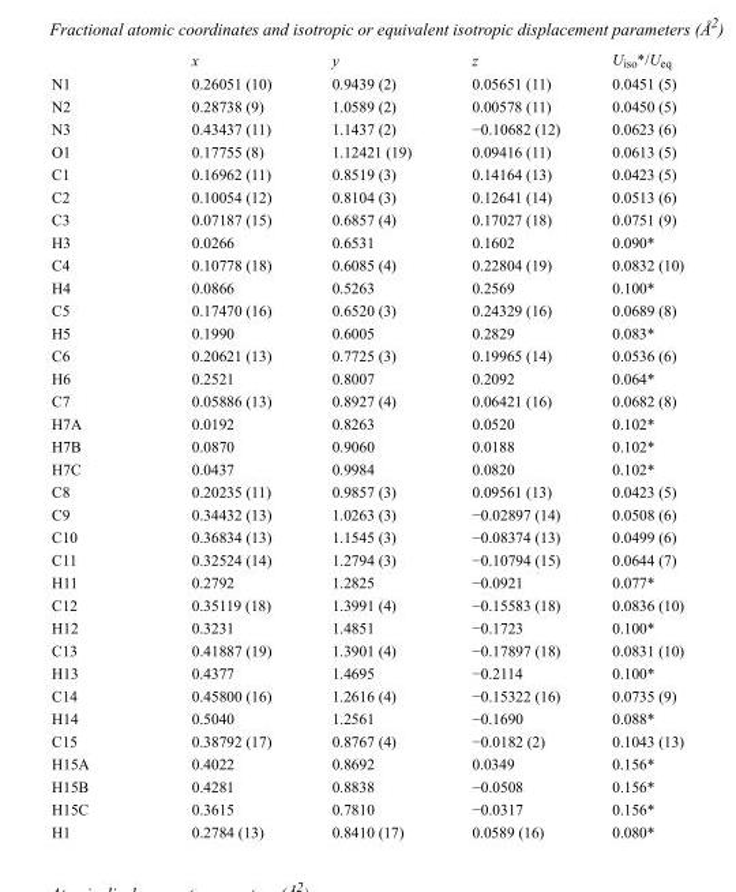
<table><thead><tr><td></td><td>x</td><td>y</td><td>z</td><td>U<sub>iso</sub>*/U<sub>eq</sub></td></tr></thead><tbody><tr><td>N1</td><td>0.26051 (10)</td><td>0.9439 (2)</td><td>0.05651 (11)</td><td>0.0451 (5)</td></tr><tr><td>N2</td><td>0.28738 (9)</td><td>1.0589 (2)</td><td>0.00578 (11)</td><td>0.0450 (5)</td></tr><tr><td>N3</td><td>0.43437 (11)</td><td>1.1437 (2)</td><td>−0.10682 (12)</td><td>0.0623 (6)</td></tr><tr><td>O1</td><td>0.17755 (8)</td><td>1.12421 (19)</td><td>0.09416 (11)</td><td>0.0613 (5)</td></tr><tr><td>C1</td><td>0.16962 (11)</td><td>0.8519 (3)</td><td>0.14164 (13)</td><td>0.0423 (5)</td></tr><tr><td>C2</td><td>0.10054 (12)</td><td>0.8104 (3)</td><td>0.12641 (14)</td><td>0.0513 (6)</td></tr><tr><td>C3</td><td>0.07187 (15)</td><td>0.6857 (4)</td><td>0.17027 (18)</td><td>0.0751 (9)</td></tr><tr><td>H3</td><td>0.0266</td><td>0.6531</td><td>0.1602</td><td>0.090*</td></tr><tr><td>C4</td><td>0.10778 (18)</td><td>0.6085 (4)</td><td>0.22804 (19)</td><td>0.0832 (10)</td></tr><tr><td>H4</td><td>0.0866</td><td>0.5263</td><td>0.2569</td><td>0.100*</td></tr><tr><td>C5</td><td>0.17470 (16)</td><td>0.6520 (3)</td><td>0.24329 (16)</td><td>0.0689 (8)</td></tr><tr><td>H5</td><td>0.1990</td><td>0.6005</td><td>0.2829</td><td>0.083*</td></tr><tr><td>C6</td><td>0.20621 (13)</td><td>0.7725 (3)</td><td>0.19965 (14)</td><td>0.0536 (6)</td></tr><tr><td>H6</td><td>0.2521</td><td>0.8007</td><td>0.2092</td><td>0.064*</td></tr><tr><td>C7</td><td>0.05886 (13)</td><td>0.8927 (4)</td><td>0.06421 (16)</td><td>0.0682 (8)</td></tr><tr><td>H7A</td><td>0.0192</td><td>0.8263</td><td>0.0520</td><td>0.102*</td></tr><tr><td>H7B</td><td>0.0870</td><td>0.9060</td><td>0.0188</td><td>0.102*</td></tr><tr><td>H7C</td><td>0.0437</td><td>0.9984</td><td>0.0820</td><td>0.102*</td></tr><tr><td>C8</td><td>0.20235 (11)</td><td>0.9857 (3)</td><td>0.09561 (13)</td><td>0.0423 (5)</td></tr><tr><td>C9</td><td>0.34432 (13)</td><td>1.0263 (3)</td><td>−0.02897 (14)</td><td>0.0508 (6)</td></tr><tr><td>C10</td><td>0.36834 (13)</td><td>1.1545 (3)</td><td>−0.08374 (13)</td><td>0.0499 (6)</td></tr><tr><td>C11</td><td>0.32524 (14)</td><td>1.2794 (3)</td><td>−0.10794 (15)</td><td>0.0644 (7)</td></tr><tr><td>H11</td><td>0.2792</td><td>1.2825</td><td>−0.0921</td><td>0.077*</td></tr><tr><td>C12</td><td>0.35119 (18)</td><td>1.3991 (4)</td><td>−0.15583 (18)</td><td>0.0836 (10)</td></tr><tr><td>H12</td><td>0.3231</td><td>1.4851</td><td>−0.1723</td><td>0.100*</td></tr><tr><td>C13</td><td>0.41887 (19)</td><td>1.3901 (4)</td><td>−0.17897 (18)</td><td>0.0831 (10)</td></tr><tr><td>H13</td><td>0.4377</td><td>1.4695</td><td>−0.2114</td><td>0.100*</td></tr><tr><td>C14</td><td>0.45800 (16)</td><td>1.2616 (4)</td><td>−0.15322 (16)</td><td>0.0735 (9)</td></tr><tr><td>H14</td><td>0.5040</td><td>1.2561</td><td>−0.1690</td><td>0.088*</td></tr><tr><td>C15</td><td>0.38792 (17)</td><td>0.8767 (4)</td><td>−0.0182 (2)</td><td>0.1043 (13)</td></tr><tr><td>H15A</td><td>0.4022</td><td>0.8692</td><td>0.0349</td><td>0.156*</td></tr><tr><td>H15B</td><td>0.4281</td><td>0.8838</td><td>−0.0508</td><td>0.156*</td></tr><tr><td>H15C</td><td>0.3615</td><td>0.7810</td><td>−0.0317</td><td>0.156*</td></tr><tr><td>H1</td><td>0.2784 (13)</td><td>0.8410 (17)</td><td>0.0589 (16)</td><td>0.080*</td></tr></tbody></table>